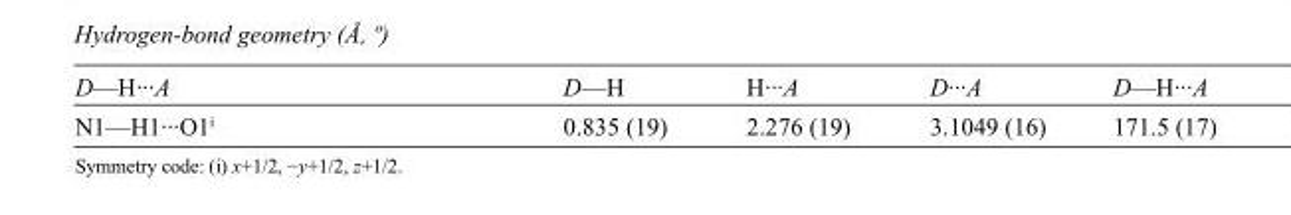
<table><tbody><tr><td>D—H···A</td><td>D—H</td><td>H···A</td><td>D···A</td><td>D—H···A</td></tr><tr><td>N1—H1···O1<sup>i</sup></td><td>0.835 (19)</td><td>2.276 (19)</td><td>3.1049 (16)</td><td>171.5 (17)</td></tr></tbody></table>